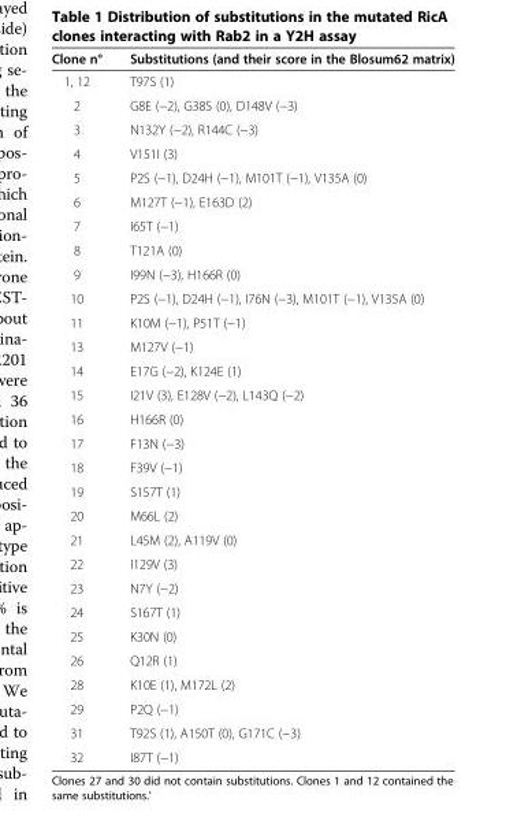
<table><thead><tr><td>Clone n°</td><td>Substitutions (and their score in the Blosum62 matrix)</td></tr></thead><tbody><tr><td>1, 12</td><td>T97S (1)</td></tr><tr><td>2</td><td>G8E (−2), G38S (0), D148V (−3)</td></tr><tr><td>3</td><td>N132Y (−2), R144C (−3)</td></tr><tr><td>4</td><td>V151I (3)</td></tr><tr><td>5</td><td>P2S (−1), D24H (−1), M101T (−1), V135A (0)</td></tr><tr><td>6</td><td>M127T (−1), E163D (2)</td></tr><tr><td>7</td><td>I65T (−1)</td></tr><tr><td>8</td><td>T121A (0)</td></tr><tr><td>9</td><td>I99N (−3), H166R (0)</td></tr><tr><td>10</td><td>P2S (−1), D24H (−1), I76N (−3), M101T (−1), V135A (0)</td></tr><tr><td>11</td><td>K10M (−1), P51T (−1)</td></tr><tr><td>13</td><td>M127V (−1)</td></tr><tr><td>14</td><td>E17G (−2), K124E (1)</td></tr><tr><td>15</td><td>I21V (3), E128V (−2), L143Q (−2)</td></tr><tr><td>16</td><td>H166R (0)</td></tr><tr><td>17</td><td>F13N (−3)</td></tr><tr><td>18</td><td>F39V (−1)</td></tr><tr><td>19</td><td>S157T (1)</td></tr><tr><td>20</td><td>M66L (2)</td></tr><tr><td>21</td><td>L45M (2), A119V (0)</td></tr><tr><td>22</td><td>I129V (3)</td></tr><tr><td>23</td><td>N7Y (−2)</td></tr><tr><td>24</td><td>S167T (1)</td></tr><tr><td>25</td><td>K30N (0)</td></tr><tr><td>26</td><td>Q12R (1)</td></tr><tr><td>28</td><td>K10E (1), M172L (2)</td></tr><tr><td>29</td><td>P2Q (−1)</td></tr><tr><td>31</td><td>T92S (1), A150T (0), G171C (−3)</td></tr><tr><td>32</td><td>I87T (−1)</td></tr></tbody></table>